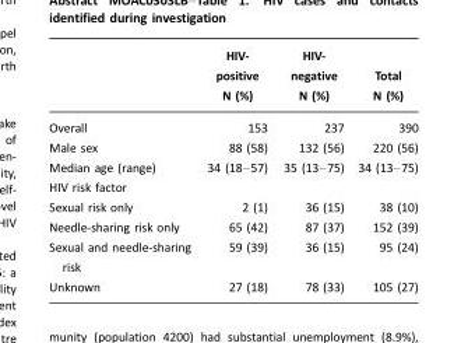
<table><thead><tr><td></td><td>HIV- positive N (%)</td><td>HIV- negative N (%)</td><td>Total N (%)</td></tr></thead><tbody><tr><td>Overall</td><td>153</td><td>237</td><td>390</td></tr><tr><td>Male sex</td><td>88 (58)</td><td>132 (56)</td><td>220 (56)</td></tr><tr><td>Median age (range)</td><td>34 (18–57)</td><td>35 (13–75)</td><td>34 (13–75)</td></tr><tr><td colspan="4">HIV risk factor</td></tr><tr><td>Sexual risk only</td><td>2 (1)</td><td>36 (15)</td><td>38 (10)</td></tr><tr><td>Needle-sharing risk only</td><td>65 (42)</td><td>87 (37)</td><td>152 (39)</td></tr><tr><td>Sexual and needle-sharing risk</td><td>59 (39)</td><td>36 (15)</td><td>95 (24)</td></tr><tr><td>Unknown</td><td>27 (18)</td><td>78 (33)</td><td>105 (27)</td></tr></tbody></table>